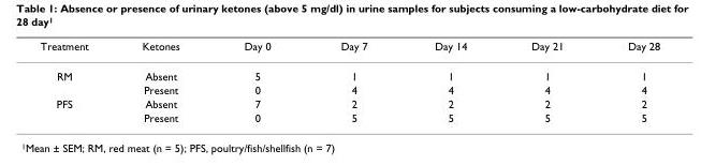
<table><thead><tr><td>Treatment</td><td>Ketones</td><td>Day 0</td><td>Day 7</td><td>Day 14</td><td>Day 21</td><td>Day 28</td></tr></thead><tbody><tr><td rowspan="2">RM</td><td>Absent</td><td>5</td><td>1</td><td>1</td><td>1</td><td>1</td></tr><tr><td>Present</td><td>0</td><td>4</td><td>4</td><td>4</td><td>4</td></tr><tr><td rowspan="2">PFS</td><td>Absent</td><td>7</td><td>2</td><td>2</td><td>2</td><td>2</td></tr><tr><td>Present</td><td>0</td><td>5</td><td>5</td><td>5</td><td>5</td></tr></tbody></table>